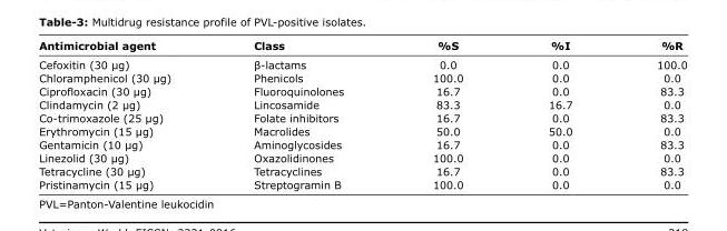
<table><thead><tr><td>Antimicrobial agent</td><td>Class</td><td>%S</td><td>%I</td><td>%R</td></tr></thead><tbody><tr><td>Cefoxitin (30 µg)</td><td>β-lactams</td><td>0.0</td><td>0.0</td><td>100.0</td></tr><tr><td>Chloramphenicol (30 µg)</td><td>Phenicols</td><td>100.0</td><td>0.0</td><td>0.0</td></tr><tr><td>Ciprofloxacin (30 µg)</td><td>Fluoroquinolones</td><td>16.7</td><td>0.0</td><td>83.3</td></tr><tr><td>Clindamycin (2 µg)</td><td>Lincosamide</td><td>83.3</td><td>16.7</td><td>0.0</td></tr><tr><td>Co-trimoxazole (25 µg)</td><td>Folate inhibitors</td><td>16.7</td><td>0.0</td><td>83.3</td></tr><tr><td>Erythromycin (15 µg)</td><td>Macrolides</td><td>50.0</td><td>50.0</td><td>0.0</td></tr><tr><td>Gentamicin (10 µg)</td><td>Aminoglycosides</td><td>16.7</td><td>0.0</td><td>83.3</td></tr><tr><td>Linezolid (30 µg)</td><td>Oxazolidinones</td><td>100.0</td><td>0.0</td><td>0.0</td></tr><tr><td>Tetracycline (30 µg)</td><td>Tetracyclines</td><td>16.7</td><td>0.0</td><td>83.3</td></tr><tr><td>Pristinamycin (15 µg)</td><td>Streptogramin B</td><td>100.0</td><td>0.0</td><td>0.0</td></tr></tbody></table>